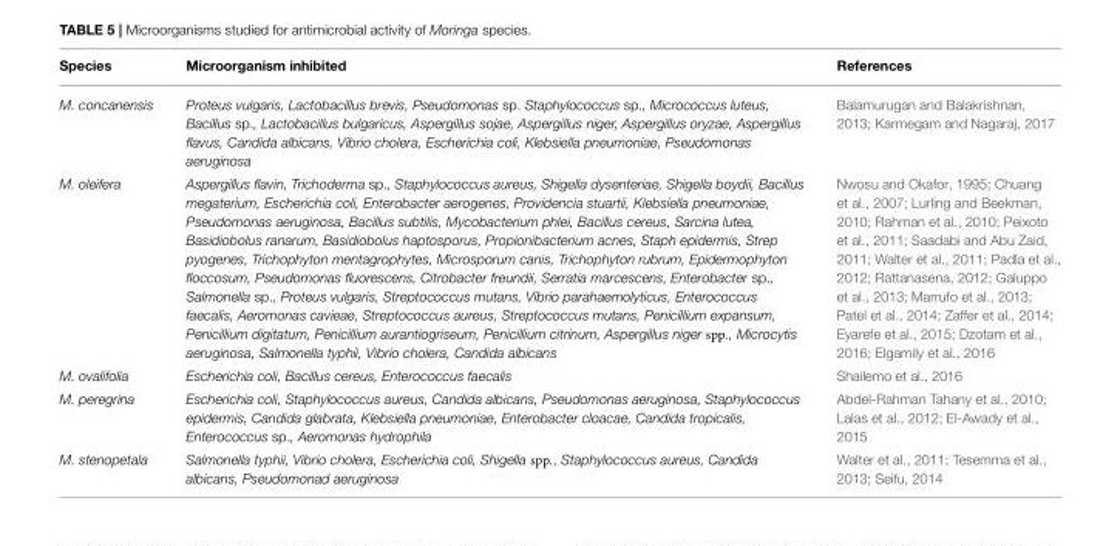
<table><thead><tr><td>Species</td><td>Microorganism inhibited</td><td>References</td></tr></thead><tbody><tr><td>M. concanensis</td><td>Proteus vulgaris, Lactobacillus brevis, Pseudomonas sp. Staphylococcus sp., Micrococcus luteus, Bacillus sp., Lactobacillus bulgaricus, Aspergillus sojae, Aspergillus niger, Aspergillus oryzae, Aspergillus flavus, Candida albicans, Vibrio cholera, Escherichia coli, Klebsiella pneumoniae, Pseudomonas aeruginosa</td><td>Balamurugan and Balakrishnan, 2013; Karmegam and Nagaraj, 2017</td></tr><tr><td>M. oleifera</td><td>Aspergillus flavin, Trichoderma sp., Staphylococcus aureus, Shigella dysenteriae, Shigella boydii, Bacillus megaterium, Escherichia coli, Enterobacter aerogenes, Providencia stuartii, Klebsiella pneumoniae, Pseudomonas aeruginosa, Bacillus subtilis, Mycobacterium phlei, Bacillus cereus, Sarcina lutea, Basidiobolus ranarum, Basidiobolus haptosporus, Propionibacterium acnes, Staph epidermis, Strep pyogenes, Trichophyton mentagrophytes, Microsporum canis, Trichophyton rubrum, Epidermophyton floccosum, Pseudomonas fluorescens, Citrobacter freundii, Serratia marcescens, Enterobacter sp., Salmonella sp., Proteus vulgaris, Streptococcus mutans, Vibrio parahaemolyticus, Enterococcus faecalis, Aeromonas cavieae, Streptococcus aureus, Streptococcus mutans, Penicillium expansum, Penicillium digitatum, Penicillium aurantiogriseum, Penicillium citrinum, Aspergillus niger spp., Microcytis aeruginosa, Salmonella typhii, Vibrio cholera, Candida albicans</td><td>Nwosu and Okafor, 1995; Chuang et al., 2007; Lurling and Beekman, 2010; Rahman et al., 2010; Peixoto et al., 2011; Saadabi and Abu Zaid, 2011; Walter et al., 2011; Padla et al., 2012; Rattanasena, 2012; Galuppo et al., 2013; Marrufo et al., 2013; Patel et al., 2014; Zaffer et al., 2014; Eyarefe et al., 2015; Dzotam et al., 2016; Elgamily et al., 2016</td></tr><tr><td>M. ovalifolia</td><td>Escherichia coli, Bacillus cereus, Enterococcus faecalis</td><td>Shailemo et al., 2016</td></tr><tr><td>M. peregrina</td><td>Escherichia coli, Staphylococcus aureus, Candida albicans, Pseudomonas aeruginosa, Staphylococcus epidermis, Candida glabrata, Klebsiella pneumoniae, Enterobacter cloacae, Candida tropicalis, Enterococcus sp., Aeromonas hydrophila</td><td>Abdel-Rahman Tahany et al., 2010; Lalas et al., 2012; El-Awady et al., 2015</td></tr><tr><td>M. stenopetala</td><td>Salmonella typhii, Vibrio cholera, Escherichia coli, Shigella spp., Staphylococcus aureus, Candida albicans, Pseudomonad aeruginosa</td><td>Walter et al., 2011; Tesemma et al., 2013; Seifu, 2014</td></tr></tbody></table>